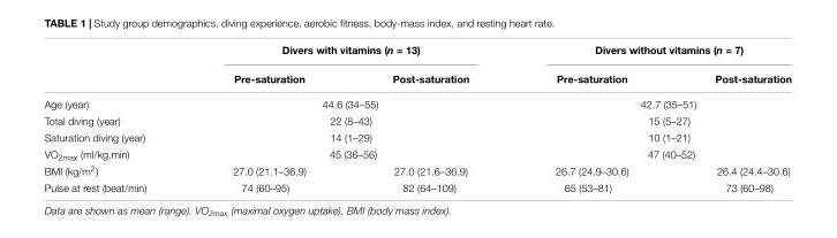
<table><thead><tr><td rowspan="2"></td><td colspan="2">Divers with vitamins (n = 13)</td><td colspan="2">Divers without vitamins (n = 7)</td></tr><tr><td>Pre-saturation</td><td>Post-saturation</td><td>Pre-saturation</td><td>Post-saturation</td></tr></thead><tbody><tr><td>Age (year)</td><td colspan="2">44.6 (34–55)</td><td colspan="2">42.7 (35–51)</td></tr><tr><td>Total diving (year)</td><td colspan="2">22 (8–43)</td><td colspan="2">15 (5–27)</td></tr><tr><td>Saturation diving (year)</td><td colspan="2">14 (1–29)</td><td colspan="2">10 (1–21)</td></tr><tr><td>VO<sub>2max</sub> (ml/kg.min)</td><td colspan="2">45 (36–56)</td><td colspan="2">47 (40–52)</td></tr><tr><td>BMI (kg/m<sup>2</sup>)</td><td>27.0 (21.1–36.9)</td><td>27.0 (21.6–36.9)</td><td>26.7 (24.9–30.6)</td><td>26.4 (24.4–30.6)</td></tr><tr><td>Pulse at rest (beat/min)</td><td>74 (60–95)</td><td>82 (64–109)</td><td>65 (53–81)</td><td>73 (60–98)</td></tr></tbody></table>